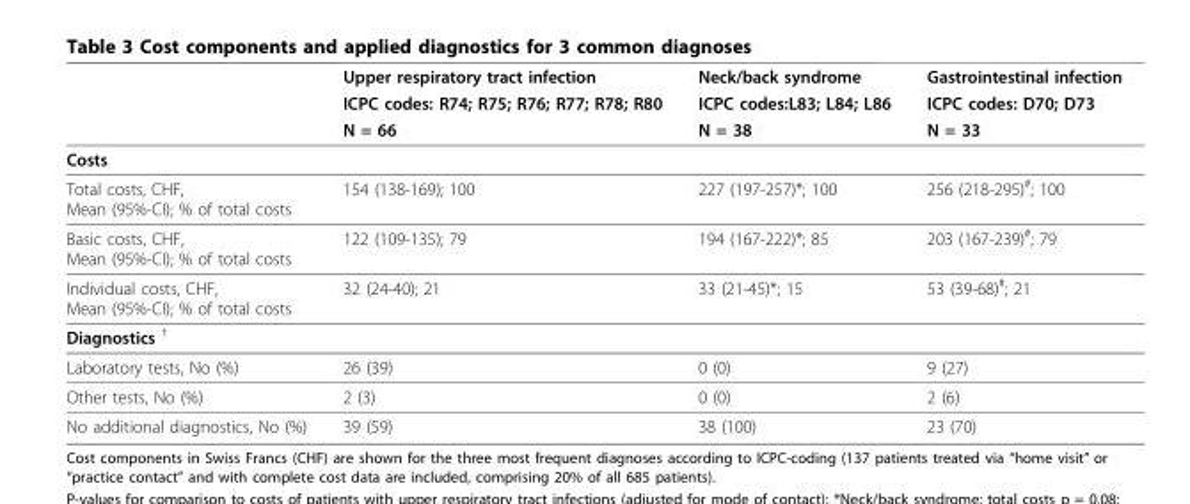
<table><thead><tr><td rowspan="3"></td><td rowspan="3">Upper respiratory tract infection ICPC codes: R74; R75; R76; R77; R78; R80 N = 66</td><td rowspan="3">Neck/back syndrome ICPC codes:L83; L84; L86 N = 38</td><td rowspan="3">Gastrointestinal infection ICPC codes: D70; D73 N = 33</td></tr><tr></tr><tr></tr></thead><tbody><tr><td colspan="4">Costs</td></tr><tr><td>Total costs, CHF, Mean (95%-CI); % of total costs</td><td>154 (138-169); 100</td><td>227 (197-257)*; 100</td><td>256 (218-295)<sup>#</sup>; 100</td></tr><tr><td>Basic costs, CHF, Mean (95%-CI); % of total costs</td><td>122 (109-135); 79</td><td>194 (167-222)*; 85</td><td>203 (167-239)<sup>#</sup>; 79</td></tr><tr><td>Individual costs, CHF, Mean (95%-CI); % of total costs</td><td>32 (24-40); 21</td><td>33 (21-45)*; 15</td><td>53 (39-68)<sup>#</sup>; 21</td></tr><tr><td colspan="4">Diagnostics <sup>†</sup></td></tr><tr><td>Laboratory tests, No (%)</td><td>26 (39)</td><td>0 (0)</td><td>9 (27)</td></tr><tr><td>Other tests, No (%)</td><td>2 (3)</td><td>0 (0)</td><td>2 (6)</td></tr><tr><td>No additional diagnostics, No (%)</td><td>39 (59)</td><td>38 (100)</td><td>23 (70)</td></tr></tbody></table>